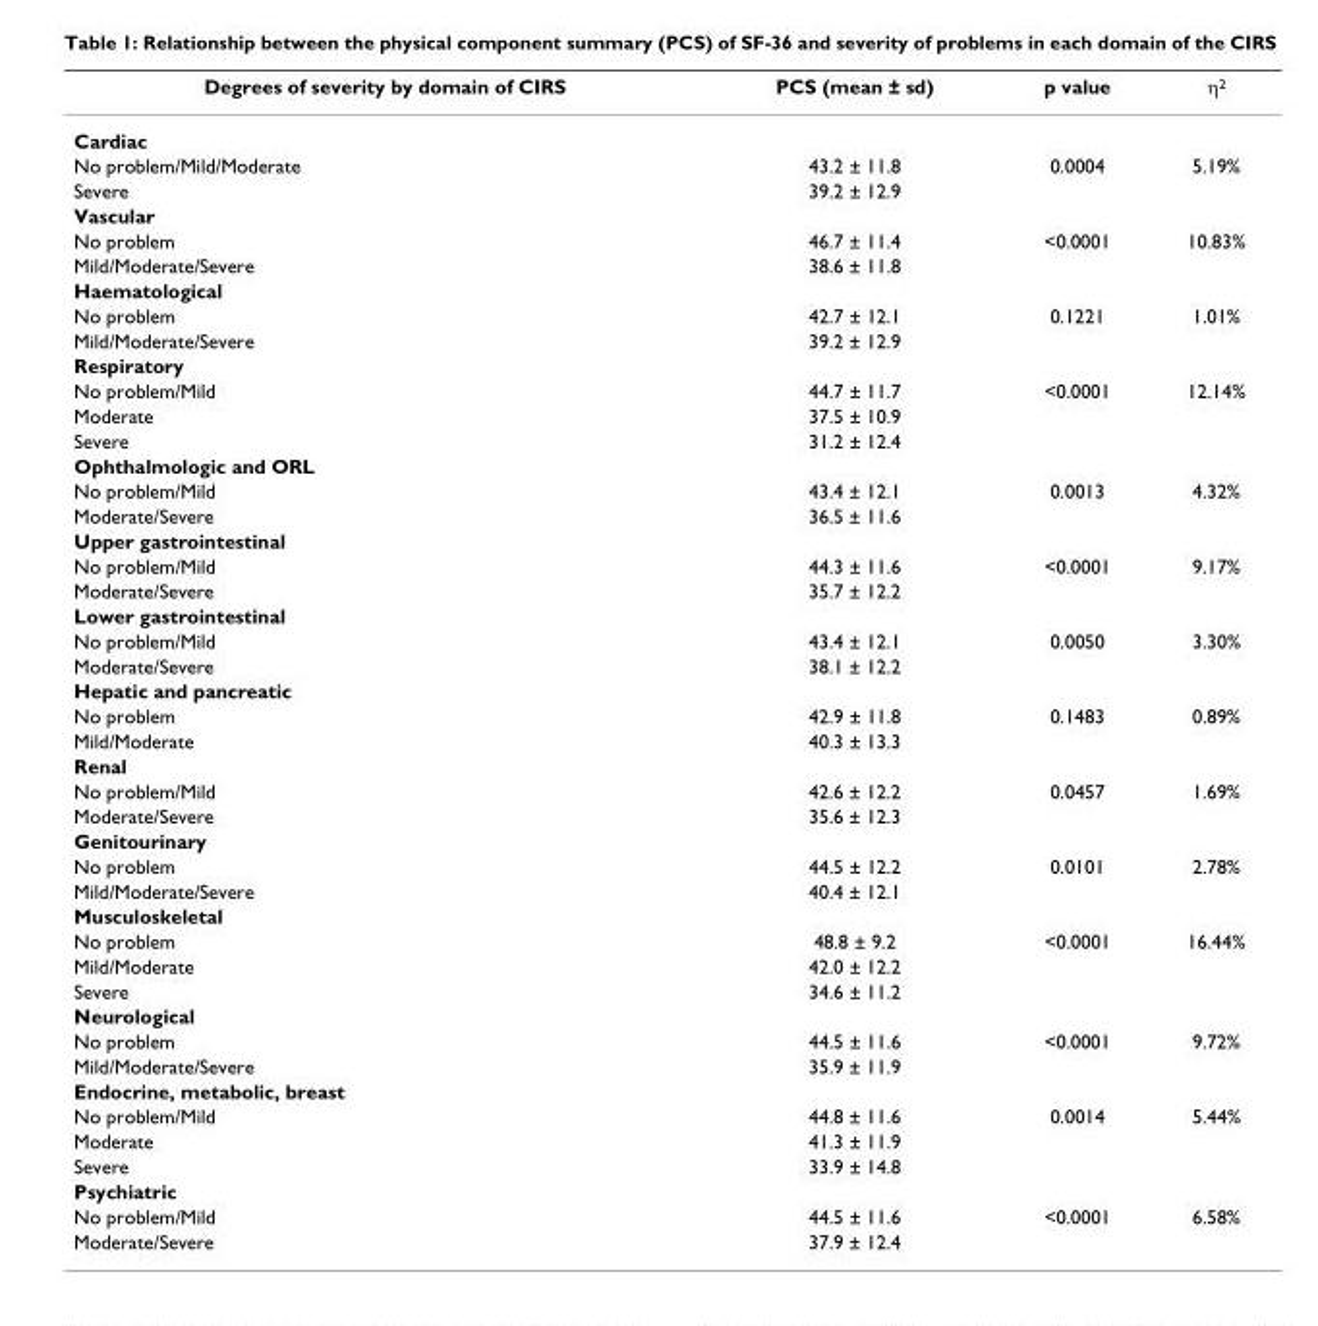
<table><thead><tr><td>Degrees of severity by domain of CIRS</td><td>PCS (mean ± sd)</td><td>p value</td><td>η<sup>2</sup></td></tr></thead><tbody><tr><td colspan="4">Cardiac</td></tr><tr><td>No problem/Mild/Moderate</td><td>43.2 ± 11.8</td><td>0.0004</td><td>5.19%</td></tr><tr><td>Severe</td><td>39.2 ± 12.9</td><td></td><td></td></tr><tr><td colspan="4">Vascular</td></tr><tr><td>No problem</td><td>46.7 ± 11.4</td><td>&lt;0.0001</td><td>10.83%</td></tr><tr><td>Mild/Moderate/Severe</td><td>38.6 ± 11.8</td><td></td><td></td></tr><tr><td colspan="4">Haematological</td></tr><tr><td>No problem</td><td>42.7 ± 12.1</td><td>0.1221</td><td>1.01%</td></tr><tr><td>Mild/Moderate/Severe</td><td>39.2 ± 12.9</td><td></td><td></td></tr><tr><td colspan="4">Respiratory</td></tr><tr><td>No problem/Mild</td><td>44.7 ± 11.7</td><td>&lt;0.0001</td><td>12.14%</td></tr><tr><td>Moderate</td><td>37.5 ± 10.9</td><td></td><td></td></tr><tr><td>Severe</td><td>31.2 ± 12.4</td><td></td><td></td></tr><tr><td colspan="4">Ophthalmologic and ORL</td></tr><tr><td>No problem/Mild</td><td>43.4 ± 12.1</td><td>0.0013</td><td>4.32%</td></tr><tr><td>Moderate/Severe</td><td>36.5 ± 11.6</td><td></td><td></td></tr><tr><td colspan="4">Upper gastrointestinal</td></tr><tr><td>No problem/Mild</td><td>44.3 ± 11.6</td><td>&lt;0.0001</td><td>9.17%</td></tr><tr><td>Moderate/Severe</td><td>35.7 ± 12.2</td><td></td><td></td></tr><tr><td colspan="4">Lower gastrointestinal</td></tr><tr><td>No problem/Mild</td><td>43.4 ± 12.1</td><td>0.0050</td><td>3.30%</td></tr><tr><td>Moderate/Severe</td><td>38.1 ± 12.2</td><td></td><td></td></tr><tr><td colspan="4">Hepatic and pancreatic</td></tr><tr><td>No problem</td><td>42.9 ± 11.8</td><td>0.1483</td><td>0.89%</td></tr><tr><td>Mild/Moderate</td><td>40.3 ± 13.3</td><td></td><td></td></tr><tr><td colspan="4">Renal</td></tr><tr><td>No problem/Mild</td><td>42.6 ± 12.2</td><td>0.0457</td><td>1.69%</td></tr><tr><td>Moderate/Severe</td><td>35.6 ± 12.3</td><td></td><td></td></tr><tr><td colspan="4">Genitourinary</td></tr><tr><td>No problem</td><td>44.5 ± 12.2</td><td>0.0101</td><td>2.78%</td></tr><tr><td>Mild/Moderate/Severe</td><td>40.4 ± 12.1</td><td></td><td></td></tr><tr><td colspan="4">Musculoskeletal</td></tr><tr><td>No problem</td><td>48.8 ± 9.2</td><td>&lt;0.0001</td><td>16.44%</td></tr><tr><td>Mild/Moderate</td><td>42.0 ± 12.2</td><td></td><td></td></tr><tr><td>Severe</td><td>34.6 ± 11.2</td><td></td><td></td></tr><tr><td colspan="4">Neurological</td></tr><tr><td>No problem</td><td>44.5 ± 11.6</td><td>&lt;0.0001</td><td>9.72%</td></tr><tr><td>Mild/Moderate/Severe</td><td>35.9 ± 11.9</td><td></td><td></td></tr><tr><td colspan="4">Endocrine, metabolic, breast</td></tr><tr><td>No problem/Mild</td><td>44.8 ± 11.6</td><td>0.0014</td><td>5.44%</td></tr><tr><td>Moderate</td><td>41.3 ± 11.9</td><td></td><td></td></tr><tr><td>Severe</td><td>33.9 ± 14.8</td><td></td><td></td></tr><tr><td colspan="4">Psychiatric</td></tr><tr><td>No problem/Mild</td><td>44.5 ± 11.6</td><td>&lt;0.0001</td><td>6.58%</td></tr><tr><td>Moderate/Severe</td><td>37.9 ± 12.4</td><td></td><td></td></tr></tbody></table>